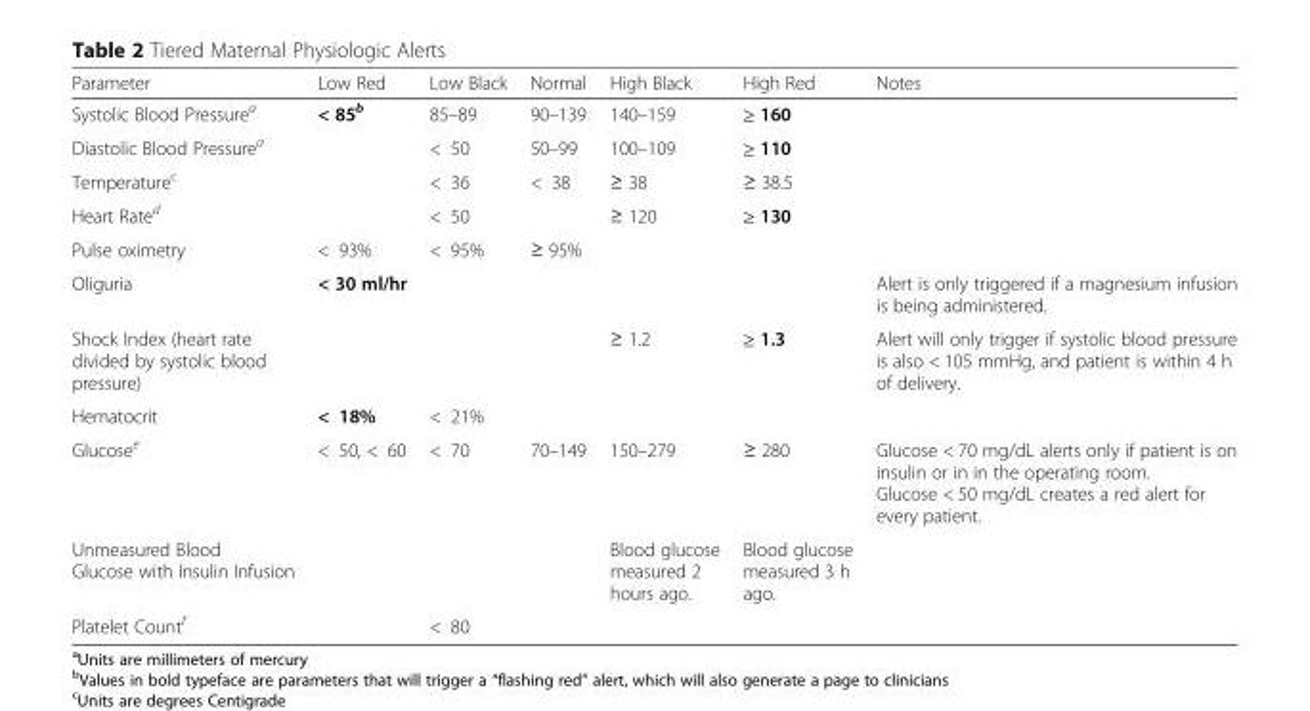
<table><thead><tr><td>Parameter</td><td>Low Red</td><td>Low Black</td><td>Normal</td><td>High Black</td><td>High Red</td><td>Notes</td></tr></thead><tbody><tr><td>Systolic Blood Pressure<sup>a</sup></td><td>&lt; 85<sup>b</sup></td><td>85–89</td><td>90–139</td><td>140–159</td><td>≥ 160</td><td></td></tr><tr><td>Diastolic Blood Pressure<sup>a</sup></td><td></td><td>&lt; 50</td><td>50–99</td><td>100–109</td><td>≥ 110</td><td></td></tr><tr><td>Temperature<sup>c</sup></td><td></td><td>&lt; 36</td><td>&lt; 38</td><td>≥ 38</td><td>≥ 38.5</td><td></td></tr><tr><td>Heart Rate<sup>d</sup></td><td></td><td>&lt; 50</td><td></td><td>≥ 120</td><td>≥ 130</td><td></td></tr><tr><td>Pulse oximetry</td><td>&lt; 93%</td><td>&lt; 95%</td><td>≥ 95%</td><td></td><td></td><td></td></tr><tr><td>Oliguria</td><td>&lt; 30 ml/hr</td><td></td><td></td><td></td><td></td><td>Alert is only triggered if a magnesium infusion is being administered.</td></tr><tr><td>Shock Index (heart rate divided by systolic blood pressure)</td><td></td><td></td><td></td><td>≥ 1.2</td><td>≥ 1.3</td><td>Alert will only trigger if systolic blood pressure is also &lt; 105 mmHg, and patient is within 4 h of delivery.</td></tr><tr><td>Hematocrit</td><td>&lt; 18%</td><td>&lt; 21%</td><td></td><td></td><td></td><td></td></tr><tr><td>Glucose<sup>e</sup></td><td>&lt; 50, &lt; 60</td><td>&lt; 70</td><td>70–149</td><td>150–279</td><td>≥ 280</td><td>Glucose &lt; 70 mg/dL alerts only if patient is on insulin or in in the operating room. Glucose &lt; 50 mg/dL creates a red alert for every patient.</td></tr><tr><td>Unmeasured Blood Glucose with Insulin Infusion</td><td></td><td></td><td></td><td>Blood glucose measured 2 hours ago.</td><td>Blood glucose measured 3 h ago.</td><td></td></tr><tr><td>Platelet Count<sup>f</sup></td><td></td><td>&lt; 80</td><td></td><td></td><td></td><td></td></tr></tbody></table>